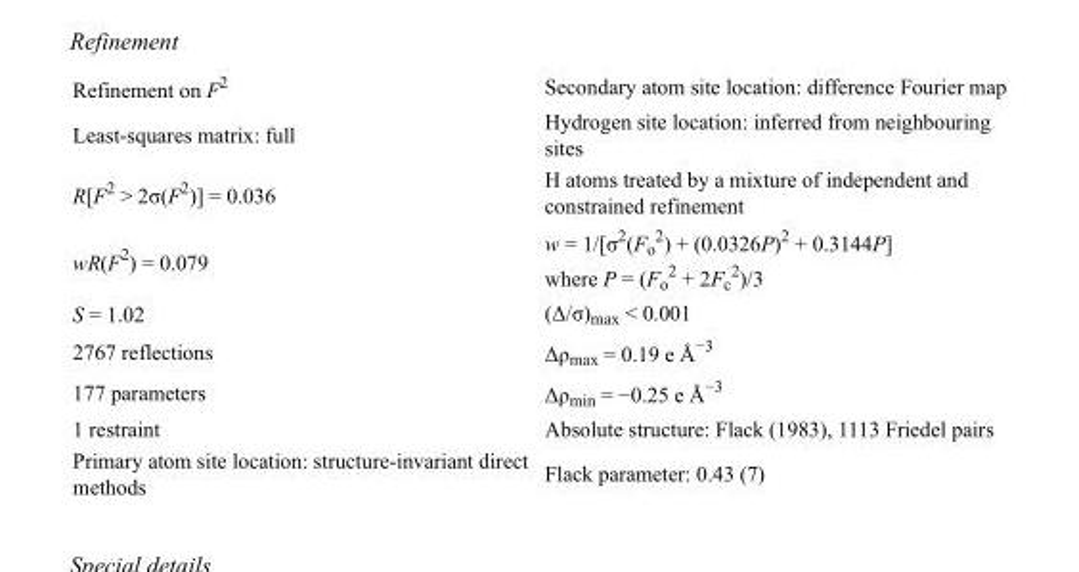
<table><tbody><tr><td>Refinement on F<sup>2</sup></td><td>Secondary atom site location: difference Fourier map</td></tr><tr><td>Least-squares matrix: full</td><td>Hydrogen site location: inferred from neighbouring sites</td></tr><tr><td>R[F<sup>2</sup> &gt; 2σ(F<sup>2</sup>)] = 0.036</td><td>H atoms treated by a mixture of independent and constrained refinement</td></tr><tr><td>wR(F<sup>2</sup>) = 0.079</td><td>w = 1/[σ<sup>2</sup>(F<sub>o</sub> <sup>2</sup>) + (0.0326P)<sup>2</sup> + 0.3144P] where P = (F<sub>o</sub> <sup>2</sup> + 2F<sub>c</sub> <sup>2</sup>)/3</td></tr><tr><td>S = 1.02</td><td>(Δ/σ)<sub>max</sub> &lt; 0.001</td></tr><tr><td>2767 reflections</td><td>Δρ<sub>max</sub> = 0.19 e Å<sup>−3</sup></td></tr><tr><td>177 parameters</td><td>Δρ<sub>min</sub> = −0.25 e Å<sup>−3</sup></td></tr><tr><td>1 restraint</td><td>Absolute structure: Flack (1983), 1113 Friedel pairs</td></tr><tr><td>Primary atom site location: structure-invariant direct methods</td><td>Flack parameter: 0.43 (7)</td></tr></tbody></table>